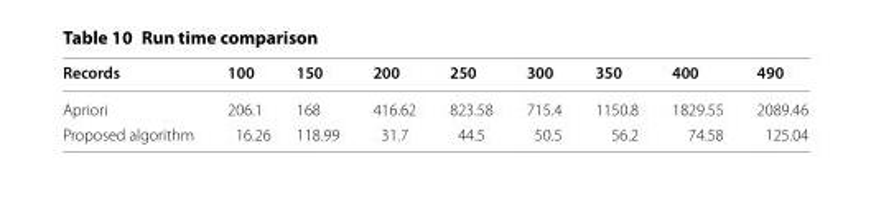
<table><thead><tr><td>Records</td><td>100</td><td>150</td><td>200</td><td>250</td><td>300</td><td>350</td><td>400</td><td>490</td></tr></thead><tbody><tr><td>Apriori</td><td>206.1</td><td>168</td><td>416.62</td><td>823.58</td><td>715.4</td><td>1150.8</td><td>1829.55</td><td>2089.46</td></tr><tr><td>Proposed algorithm</td><td>16.26</td><td>118.99</td><td>31.7</td><td>44.5</td><td>50.5</td><td>56.2</td><td>74.58</td><td>125.04</td></tr></tbody></table>